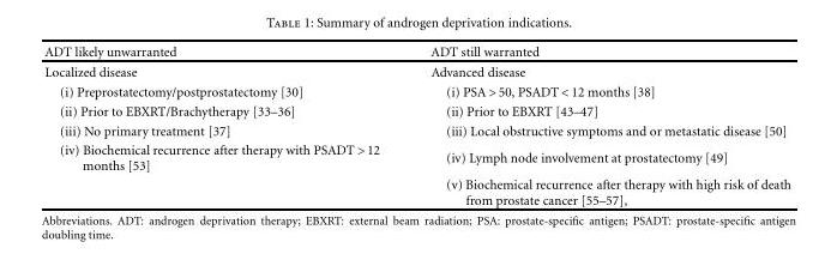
<table><thead><tr><td>ADT likely unwarranted</td><td>ADT still warranted</td></tr></thead><tbody><tr><td>Localized disease</td><td>Advanced disease</td></tr><tr><td>(i) Preprostatectomy/postprostatectomy [30]</td><td>(i) PSA &gt; 50, PSADT &lt; 12 months [38]</td></tr><tr><td>(ii) Prior to EBXRT/Brachytherapy [33–36]</td><td>(ii) Prior to EBXRT [43–47]</td></tr><tr><td>(iii) No primary treatment [37]</td><td>(iii) Local obstructive symptoms and or metastatic disease [50]</td></tr><tr><td rowspan="2">(iv) Biochemical recurrence after therapy with PSADT &gt; 12 months [53]</td><td>(iv) Lymph node involvement at prostatectomy [49]</td></tr><tr><td>(v) Biochemical recurrence after therapy with high risk of death from prostate cancer [55–57],</td></tr></tbody></table>